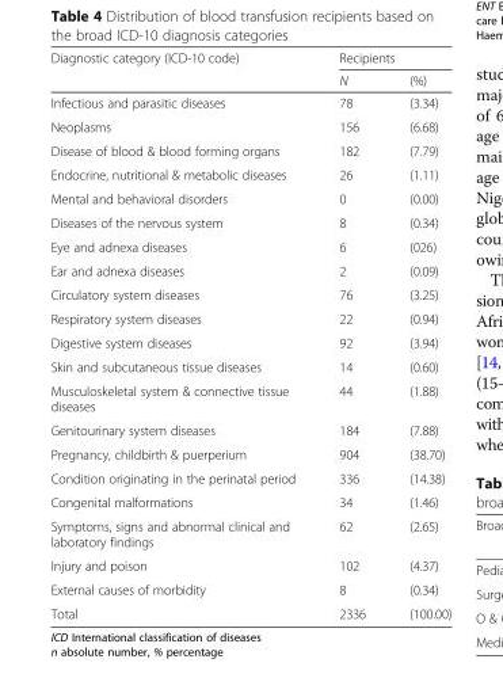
<table><thead><tr><td rowspan="2">Diagnostic category (ICD-10 code)</td><td colspan="2">Recipients</td></tr><tr><td>N</td><td>(%)</td></tr></thead><tbody><tr><td>Infectious and parasitic diseases</td><td>78</td><td>(3.34)</td></tr><tr><td>Neoplasms</td><td>156</td><td>(6.68)</td></tr><tr><td>Disease of blood &amp; blood forming organs</td><td>182</td><td>(7.79)</td></tr><tr><td>Endocrine, nutritional &amp; metabolic diseases</td><td>26</td><td>(1.11)</td></tr><tr><td>Mental and behavioral disorders</td><td>0</td><td>(0.00)</td></tr><tr><td>Diseases of the nervous system</td><td>8</td><td>(0.34)</td></tr><tr><td>Eye and adnexa diseases</td><td>6</td><td>(026)</td></tr><tr><td>Ear and adnexa diseases</td><td>2</td><td>(0.09)</td></tr><tr><td>Circulatory system diseases</td><td>76</td><td>(3.25)</td></tr><tr><td>Respiratory system diseases</td><td>22</td><td>(0.94)</td></tr><tr><td>Digestive system diseases</td><td>92</td><td>(3.94)</td></tr><tr><td>Skin and subcutaneous tissue diseases</td><td>14</td><td>(0.60)</td></tr><tr><td>Musculoskeletal system &amp; connective tissue diseases</td><td>44</td><td>(1.88)</td></tr><tr><td>Genitourinary system diseases</td><td>184</td><td>(7.88)</td></tr><tr><td>Pregnancy, childbirth &amp; puerperium</td><td>904</td><td>(38.70)</td></tr><tr><td>Condition originating in the perinatal period</td><td>336</td><td>(14.38)</td></tr><tr><td>Congenital malformations</td><td>34</td><td>(1.46)</td></tr><tr><td>Symptoms, signs and abnormal clinical and laboratory findings</td><td>62</td><td>(2.65)</td></tr><tr><td>Injury and poison</td><td>102</td><td>(4.37)</td></tr><tr><td>External causes of morbidity</td><td>8</td><td>(0.34)</td></tr><tr><td>Total</td><td>2336</td><td>(100.00)</td></tr></tbody></table>